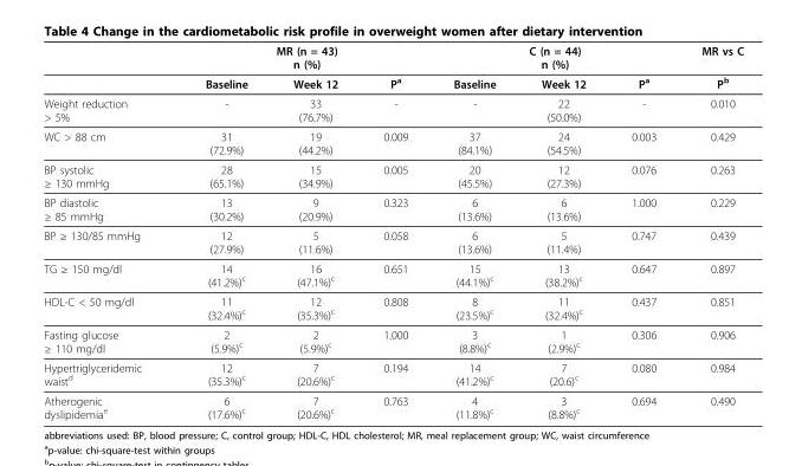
<table><thead><tr><td rowspan="2"></td><td colspan="3">MR (n = 43) n (%)</td><td colspan="3">C (n = 44) n (%)</td><td rowspan="2">MR vs C P<sup>b</sup></td></tr><tr><td>Baseline</td><td>Week 12</td><td>P<sup>a</sup></td><td>Baseline</td><td>Week 12</td><td>P<sup>a</sup></td></tr></thead><tbody><tr><td>Weight reduction &gt; 5%</td><td>-</td><td>33 (76.7%)</td><td>-</td><td>-</td><td>22 (50.0%)</td><td>-</td><td>0.010</td></tr><tr><td>WC &gt; 88 cm</td><td>31 (72.9%)</td><td>19 (44.2%)</td><td>0.009</td><td>37 (84.1%)</td><td>24 (54.5%)</td><td>0.003</td><td>0.429</td></tr><tr><td>BP systolic ≥ 130 mmHg</td><td>28 (65.1%)</td><td>15 (34.9%)</td><td>0.005</td><td>20 (45.5%)</td><td>12 (27.3%)</td><td>0.076</td><td>0.263</td></tr><tr><td>BP diastolic ≥ 85 mmHg</td><td>13 (30.2%)</td><td>9 (20.9%)</td><td>0.323</td><td>6 (13.6%)</td><td>6 (13.6%)</td><td>1.000</td><td>0.229</td></tr><tr><td>BP ≥ 130/85 mmHg</td><td>12 (27.9%)</td><td>5 (11.6%)</td><td>0.058</td><td>6 (13.6%)</td><td>5 (11.4%)</td><td>0.747</td><td>0.439</td></tr><tr><td>TG ≥ 150 mg/dl</td><td>14 (41.2%)<sup>c</sup></td><td>16 (47.1%)<sup>c</sup></td><td>0.651</td><td>15 (44.1%)<sup>c</sup></td><td>13 (38.2%)<sup>c</sup></td><td>0.647</td><td>0.897</td></tr><tr><td>HDL-C &lt; 50 mg/dl</td><td>11 (32.4%)<sup>c</sup></td><td>12 (35.3%)<sup>c</sup></td><td>0.808</td><td>8 (23.5%)<sup>c</sup></td><td>11 (32.4%)<sup>c</sup></td><td>0.437</td><td>0.851</td></tr><tr><td>Fasting glucose ≥ 110 mg/dl</td><td>2 (5.9%)<sup>c</sup></td><td>2 (5.9%)<sup>c</sup></td><td>1.000</td><td>3 (8.8%)<sup>c</sup></td><td>1 (2.9%)<sup>c</sup></td><td>0.306</td><td>0.906</td></tr><tr><td>Hypertriglyceridemic waist<sup>d</sup></td><td>12 (35.3%)<sup>c</sup></td><td>7 (20.6%)<sup>c</sup></td><td>0.194</td><td>14 (41.2%)<sup>c</sup></td><td>7 (20.6)<sup>c</sup></td><td>0.080</td><td>0.984</td></tr><tr><td>Atherogenic dyslipidemia<sup>e</sup></td><td>6 (17.6%)<sup>c</sup></td><td>7 (20.6%)<sup>c</sup></td><td>0.763</td><td>4 (11.8%)<sup>c</sup></td><td>3 (8.8%)<sup>c</sup></td><td>0.694</td><td>0.490</td></tr></tbody></table>